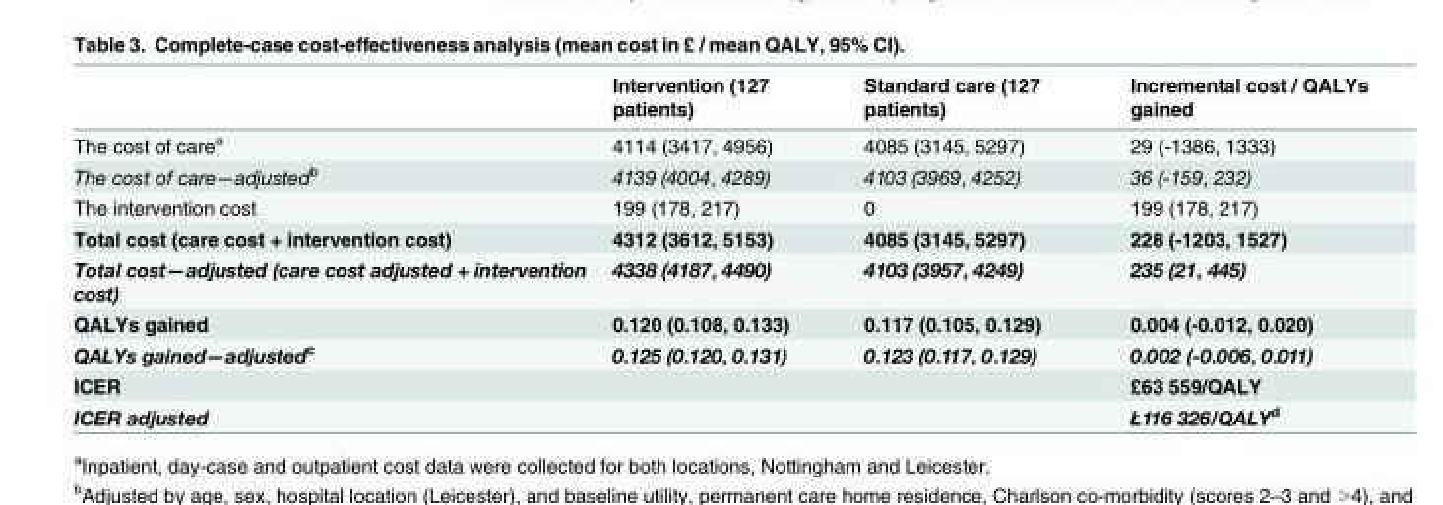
<table><thead><tr><td></td><td>Intervention (127 patients)</td><td>Standard care (127 patients)</td><td>Incremental cost / QALYs gained</td></tr></thead><tbody><tr><td>The cost of care<sup>a</sup></td><td>4114 (3417, 4956)</td><td>4085 (3145, 5297)</td><td>29 (-1386, 1333)</td></tr><tr><td>The cost of care—adjusted<sup>b</sup></td><td>4139 (4004, 4289)</td><td>4103 (3969, 4252)</td><td>36 (-159, 232)</td></tr><tr><td>The intervention cost</td><td>199 (178, 217)</td><td>0</td><td>199 (178, 217)</td></tr><tr><td>Total cost (care cost + intervention cost)</td><td>4312 (3612, 5153)</td><td>4085 (3145, 5297)</td><td>228 (-1203, 1527)</td></tr><tr><td>Total cost—adjusted (care cost adjusted + intervention cost)</td><td>4338 (4187, 4490)</td><td>4103 (3957, 4249)</td><td>235 (21, 445)</td></tr><tr><td>QALYs gained</td><td>0.120 (0.108, 0.133)</td><td>0.117 (0.105, 0.129)</td><td>0.004 (-0.012, 0.020)</td></tr><tr><td>QALYs gained—adjusted<sup>c</sup></td><td>0.125 (0.120, 0.131)</td><td>0.123 (0.117, 0.129)</td><td>0.002 (-0.006, 0.011)</td></tr><tr><td>ICER</td><td></td><td></td><td>£63 559/QALY</td></tr><tr><td>ICER adjusted</td><td></td><td></td><td>£116 326/QALY<sup>d</sup></td></tr></tbody></table>